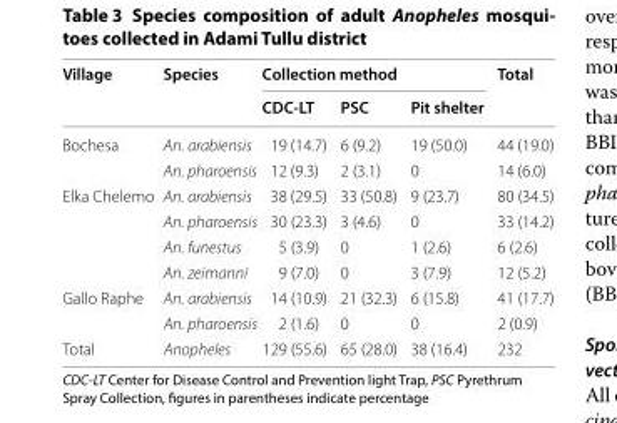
<table><thead><tr><td rowspan="2">Village</td><td rowspan="2">Species</td><td colspan="3">Collection method</td><td rowspan="2">Total</td></tr><tr><td>CDC-LT</td><td>PSC</td><td>Pit shelter</td></tr></thead><tbody><tr><td rowspan="2">Bochesa</td><td>An. arabiensis</td><td>19 (14.7)</td><td>6 (9.2)</td><td>19 (50.0)</td><td>44 (19.0)</td></tr><tr><td>An. pharoensis</td><td>12 (9.3)</td><td>2 (3.1)</td><td>0</td><td>14 (6.0)</td></tr><tr><td rowspan="4">Elka Chelemo</td><td>An. arabiensis</td><td>38 (29.5)</td><td>33 (50.8)</td><td>9 (23.7)</td><td>80 (34.5)</td></tr><tr><td>An. pharoensis</td><td>30 (23.3)</td><td>3 (4.6)</td><td>0</td><td>33 (14.2)</td></tr><tr><td>An. funestus</td><td>5 (3.9)</td><td>0</td><td>1 (2.6)</td><td>6 (2.6)</td></tr><tr><td>An. zeimanni</td><td>9 (7.0)</td><td>0</td><td>3 (7.9)</td><td>12 (5.2)</td></tr><tr><td rowspan="2">Gallo Raphe</td><td>An. arabiensis</td><td>14 (10.9)</td><td>21 (32.3)</td><td>6 (15.8)</td><td>41 (17.7)</td></tr><tr><td>An. pharoensis</td><td>2 (1.6)</td><td>0</td><td>0</td><td>2 (0.9)</td></tr><tr><td>Total</td><td>Anopheles</td><td>129 (55.6)</td><td>65 (28.0)</td><td>38 (16.4)</td><td>232</td></tr></tbody></table>